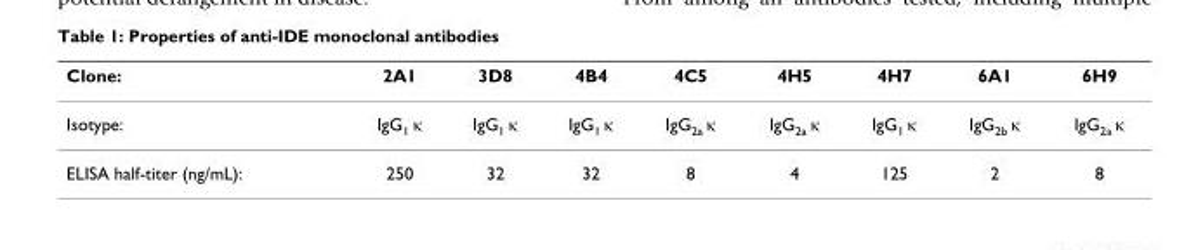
<table><thead><tr><td>Clone:</td><td>2A1</td><td>3D8</td><td>4B4</td><td>4C5</td><td>4H5</td><td>4H7</td><td>6A1</td><td>6H9</td></tr></thead><tbody><tr><td>Isotype:</td><td>IgG<sub>1</sub> κ</td><td>IgG<sub>1</sub> κ</td><td>IgG<sub>1</sub> κ</td><td>IgG<sub>2a</sub> κ</td><td>IgG<sub>2a</sub> κ</td><td>IgG<sub>1</sub> κ</td><td>IgG<sub>2b</sub> κ</td><td>IgG<sub>2a</sub> κ</td></tr><tr><td>ELISA half-titer (ng/mL):</td><td>250</td><td>32</td><td>32</td><td>8</td><td>4</td><td>125</td><td>2</td><td>8</td></tr></tbody></table>